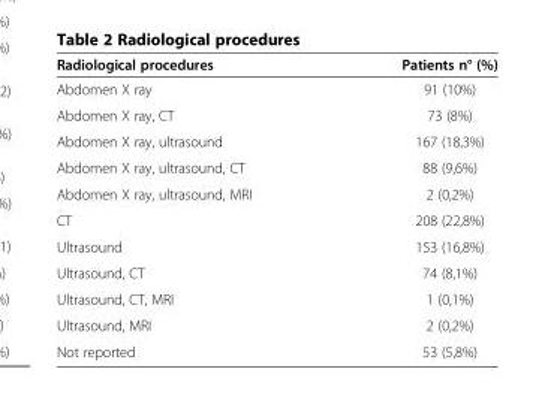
<table><thead><tr><td>Radiological procedures</td><td>Patients n° (%)</td></tr></thead><tbody><tr><td>Abdomen X ray</td><td>91 (10%)</td></tr><tr><td>Abdomen X ray, CT</td><td>73 (8%)</td></tr><tr><td>Abdomen X ray, ultrasound</td><td>167 (18,3%)</td></tr><tr><td>Abdomen X ray, ultrasound, CT</td><td>88 (9,6%)</td></tr><tr><td>Abdomen X ray, ultrasound, MRI</td><td>2 (0,2%)</td></tr><tr><td>CT</td><td>208 (22,8%)</td></tr><tr><td>Ultrasound</td><td>153 (16,8%)</td></tr><tr><td>Ultrasound, CT</td><td>74 (8,1%)</td></tr><tr><td>Ultrasound, CT, MRI</td><td>1 (0,1%)</td></tr><tr><td>Ultrasound, MRI</td><td>2 (0,2%)</td></tr><tr><td>Not reported</td><td>53 (5,8%)</td></tr></tbody></table>